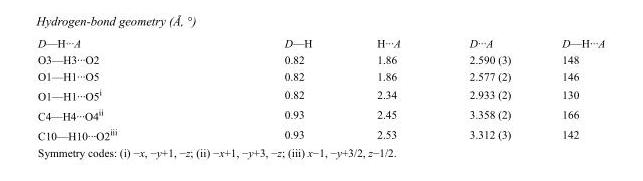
<table><tbody><tr><td>D—H···A</td><td>D—H</td><td>H···A</td><td>D···A</td><td>D—H···A</td></tr><tr><td>O3—H3···O2</td><td>0.82</td><td>1.86</td><td>2.590 (3)</td><td>148</td></tr><tr><td>O1—H1···O5</td><td>0.82</td><td>1.86</td><td>2.577 (2)</td><td>146</td></tr><tr><td>O1—H1···O5<sup>i</sup></td><td>0.82</td><td>2.34</td><td>2.933 (2)</td><td>130</td></tr><tr><td>C4—H4···O4<sup>ii</sup></td><td>0.93</td><td>2.45</td><td>3.358 (2)</td><td>166</td></tr><tr><td>C10—H10···O2<sup>iii</sup></td><td>0.93</td><td>2.53</td><td>3.312 (3)</td><td>142</td></tr></tbody></table>